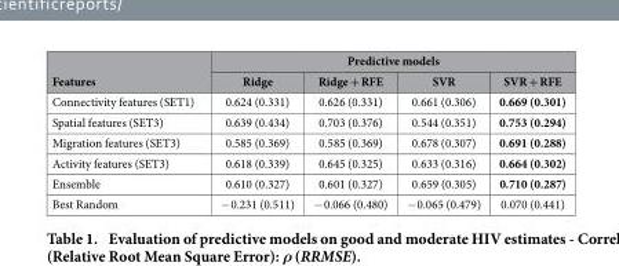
<table><thead><tr><td rowspan="2">Features</td><td colspan="4">Predictive models</td></tr><tr><td>Ridge</td><td>Ridge + RFE</td><td>SVR</td><td>SVR + RFE</td></tr></thead><tbody><tr><td>Connectivity features (SET1)</td><td>0.624 (0.331)</td><td>0.626 (0.331)</td><td>0.661 (0.306)</td><td>0.669 (0.301)</td></tr><tr><td>Spatial features (SET3)</td><td>0.639 (0.434)</td><td>0.703 (0.376)</td><td>0.544 (0.351)</td><td>0.753 (0.294)</td></tr><tr><td>Migration features (SET3)</td><td>0.585 (0.369)</td><td>0.585 (0.369)</td><td>0.678 (0.307)</td><td>0.691 (0.288)</td></tr><tr><td>Activity features (SET3)</td><td>0.618 (0.339)</td><td>0.645 (0.325)</td><td>0.633 (0.316)</td><td>0.664 (0.302)</td></tr><tr><td>Ensemble</td><td>0.610 (0.327)</td><td>0.601 (0.327)</td><td>0.659 (0.305)</td><td>0.710 (0.287)</td></tr><tr><td>Best Random</td><td>− 0.231 (0.511)</td><td>− 0.066 (0.480)</td><td>− 0.065 (0.479)</td><td>0.070 (0.441)</td></tr></tbody></table>